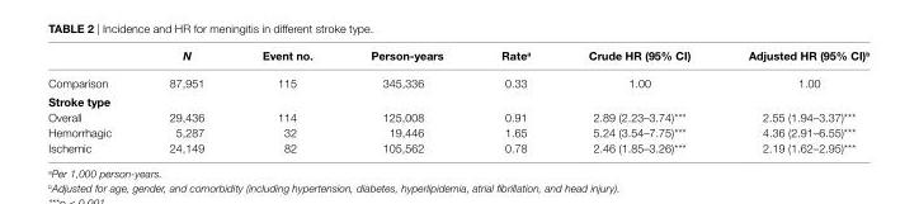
<table><thead><tr><td></td><td>N</td><td>event no.</td><td>Person-years</td><td>rate<sup>a</sup></td><td>crude hr (95% ci)</td><td>adjusted hr (95% ci)<sup>b</sup></td></tr></thead><tbody><tr><td>Comparison</td><td>87,951</td><td>115</td><td>345,336</td><td>0.33</td><td>1.00</td><td>1.00</td></tr><tr><td colspan="7">stroke type</td></tr><tr><td>Overall</td><td>29,436</td><td>114</td><td>125,008</td><td>0.91</td><td>2.89 (2.23–3.74)***</td><td>2.55 (1.94–3.37)***</td></tr><tr><td>Hemorrhagic</td><td>5,287</td><td>32</td><td>19,446</td><td>1.65</td><td>5.24 (3.54–7.75)***</td><td>4.36 (2.91–6.55)***</td></tr><tr><td>Ischemic</td><td>24,149</td><td>82</td><td>105,562</td><td>0.78</td><td>2.46 (1.85–3.26)***</td><td>2.19 (1.62–2.95)***</td></tr></tbody></table>